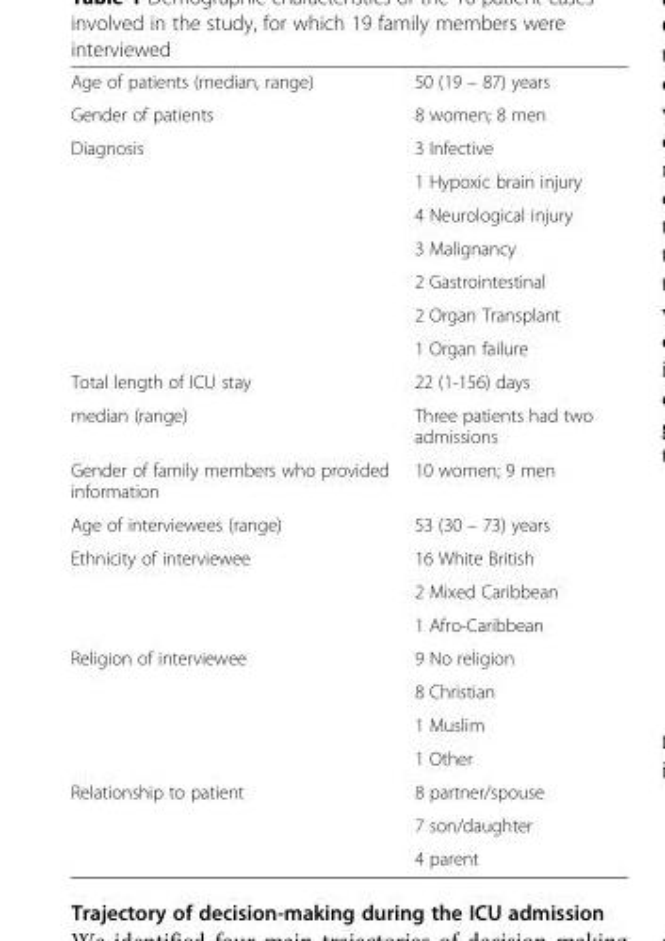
<table><tbody><tr><td>Age of patients (median, range)</td><td>50 (19 – 87) years</td></tr><tr><td>Gender of patients</td><td>8 women; 8 men</td></tr><tr><td rowspan="7">Diagnosis</td><td>3 Infective</td></tr><tr><td>1 Hypoxic brain injury</td></tr><tr><td>4 Neurological injury</td></tr><tr><td>3 Malignancy</td></tr><tr><td>2 Gastrointestinal</td></tr><tr><td>2 Organ Transplant</td></tr><tr><td>1 Organ failure</td></tr><tr><td>Total length of ICU stay</td><td>22 (1-156) days</td></tr><tr><td>median (range)</td><td>Three patients had two admissions</td></tr><tr><td>Gender of family members who provided information</td><td>10 women; 9 men</td></tr><tr><td>Age of interviewees (range)</td><td>53 (30 – 73) years</td></tr><tr><td rowspan="3">Ethnicity of interviewee</td><td>16 White British</td></tr><tr><td>2 Mixed Caribbean</td></tr><tr><td>1 Afro-Caribbean</td></tr><tr><td rowspan="4">Religion of interviewee</td><td>9 No religion</td></tr><tr><td>8 Christian</td></tr><tr><td>1 Muslim</td></tr><tr><td>1 Other</td></tr><tr><td rowspan="3">Relationship to patient</td><td>8 partner/spouse</td></tr><tr><td>7 son/daughter</td></tr><tr><td>4 parent</td></tr></tbody></table>